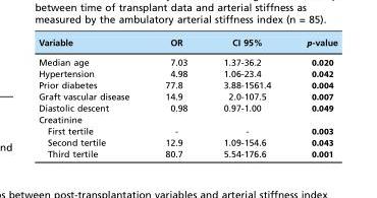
<table><thead><tr><td>Variable</td><td>OR</td><td>CI 95%</td><td>p-value</td></tr></thead><tbody><tr><td>Median age</td><td>7.03</td><td>1.37-36.2</td><td>0.020</td></tr><tr><td>Hypertension</td><td>4.98</td><td>1.06-23.4</td><td>0.042</td></tr><tr><td>Prior diabetes</td><td>77.8</td><td>3.88-1561.4</td><td>0.004</td></tr><tr><td>Graft vascular disease</td><td>14.9</td><td>2.0-107.5</td><td>0.007</td></tr><tr><td>Diastolic descent</td><td>0.98</td><td>0.97-1.00</td><td>0.049</td></tr><tr><td colspan="4">Creatinine</td></tr><tr><td>First tertile</td><td>-</td><td>-</td><td>0.003</td></tr><tr><td>Second tertile</td><td>12.9</td><td>1.09-154.6</td><td>0.043</td></tr><tr><td>Third tertile</td><td>80.7</td><td>5.54-176.6</td><td>0.001</td></tr></tbody></table>